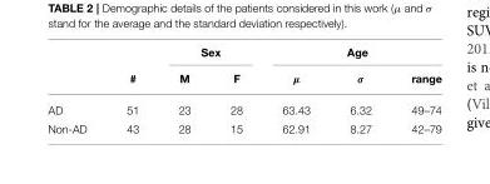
<table><thead><tr><td rowspan="2"></td><td rowspan="2">#</td><td colspan="2">Sex</td><td colspan="3">Age</td></tr><tr><td>M</td><td>F</td><td>µ</td><td>σ</td><td>range</td></tr></thead><tbody><tr><td>AD</td><td>51</td><td>23</td><td>28</td><td>63.43</td><td>6.32</td><td>49–74</td></tr><tr><td>Non-AD</td><td>43</td><td>28</td><td>15</td><td>62.91</td><td>8.27</td><td>42–79</td></tr></tbody></table>